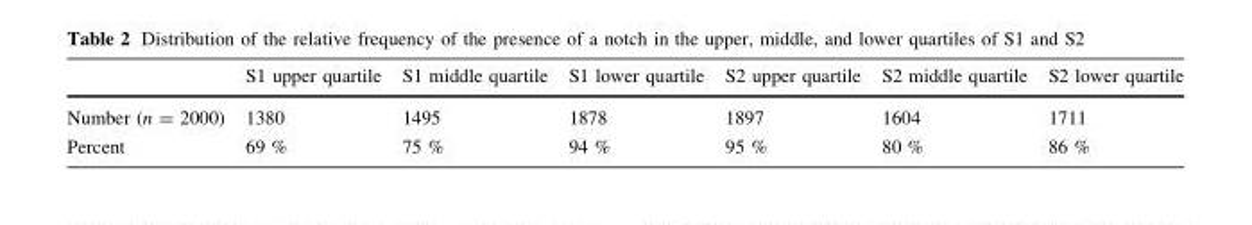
<table><thead><tr><td></td><td>S1 upper quartile</td><td>S1 middle quartile</td><td>S1 lower quartile</td><td>S2 upper quartile</td><td>S2 middle quartile</td><td>S2 lower quartile</td></tr></thead><tbody><tr><td>Number (n = 2000)</td><td>1380</td><td>1495</td><td>1878</td><td>1897</td><td>1604</td><td>1711</td></tr><tr><td>Percent</td><td>69 %</td><td>75 %</td><td>94 %</td><td>95 %</td><td>80 %</td><td>86 %</td></tr></tbody></table>